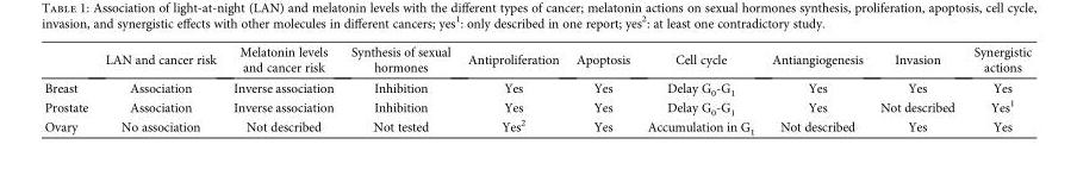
<table><thead><tr><td></td><td>LAN and cancer risk</td><td>Melatonin levels and cancer risk</td><td>Synthesis of sexual hormones</td><td>Antiproliferation</td><td>Apoptosis</td><td>Cell cycle</td><td>Antiangiogenesis</td><td>Invasion</td><td>Synergistic actions</td></tr></thead><tbody><tr><td>Breast</td><td>Association</td><td>Inverse association</td><td>Inhibition</td><td>Yes</td><td>Yes</td><td>Delay G<sub>0</sub>-G<sub>1</sub></td><td>Yes</td><td>Yes</td><td>Yes</td></tr><tr><td>Prostate</td><td>Association</td><td>Inverse association</td><td>Inhibition</td><td>Yes</td><td>Yes</td><td>Delay G<sub>0</sub>-G<sub>1</sub></td><td>Yes</td><td>Not described</td><td>Yes<sup>1</sup></td></tr><tr><td>Ovary</td><td>No association</td><td>Not described</td><td>Not tested</td><td>Yes<sup>2</sup></td><td>Yes</td><td>Accumulation in G<sub>1</sub></td><td>Not described</td><td>Yes</td><td>Yes</td></tr></tbody></table>